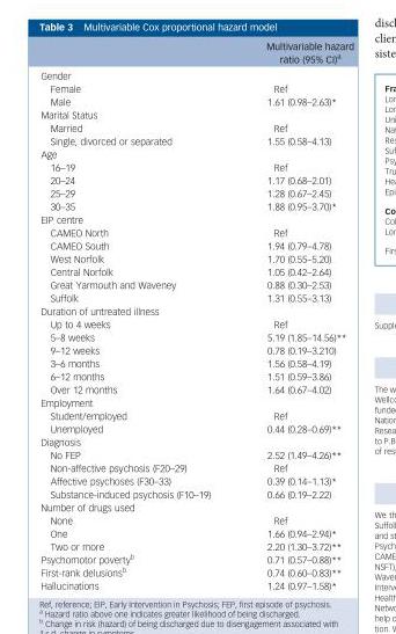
<table><thead><tr><td></td><td>Multivariable hazard ratio (95% CI)<sup>a</sup></td></tr></thead><tbody><tr><td colspan="2">Gender</td></tr><tr><td>Female</td><td>Ref</td></tr><tr><td>Male</td><td>1.61 (0.98–2.63)*</td></tr><tr><td colspan="2">Marital Status</td></tr><tr><td>Married</td><td>Ref</td></tr><tr><td>Single, divorced or separated</td><td>1.55 (0.58–4.13)</td></tr><tr><td colspan="2">Age</td></tr><tr><td>16–19</td><td>Ref</td></tr><tr><td>20–24</td><td>1.17 (0.68–2.01)</td></tr><tr><td>25–29</td><td>1.28 (0.67–2.45)</td></tr><tr><td>30–35</td><td>1.88 (0.95–3.70)*</td></tr><tr><td colspan="2">EIP centre</td></tr><tr><td>CAMEO North</td><td>Ref</td></tr><tr><td>CAMEO South</td><td>1.94 (0.79–4.78)</td></tr><tr><td>West Norfolk</td><td>1.70 (0.55–5.20)</td></tr><tr><td>Central Norfolk</td><td>1.05 (0.42–2.64)</td></tr><tr><td>Great Yarmouth and Waveney</td><td>0.88 (0.30–2.53)</td></tr><tr><td>Suffolk</td><td>1.31 (0.55–3.13)</td></tr><tr><td colspan="2">Duration of untreated illness</td></tr><tr><td>Up to 4 weeks</td><td>Ref</td></tr><tr><td>5–8 weeks</td><td>5.19 (1.85–14.56)**</td></tr><tr><td>9–12 weeks</td><td>0.78 (0.19–3.210)</td></tr><tr><td>3–6 months</td><td>1.56 (0.58–4.19)</td></tr><tr><td>6–12 months</td><td>1.51 (0.59–3.86)</td></tr><tr><td>Over 12 months</td><td>1.64 (0.67–4.02)</td></tr><tr><td colspan="2">Employment</td></tr><tr><td>Student/employed</td><td>Ref</td></tr><tr><td>Unemployed</td><td>0.44 (0.28–0.69)**</td></tr><tr><td colspan="2">Diagnosis</td></tr><tr><td>No FEP</td><td>2.52 (1.49–4.26)**</td></tr><tr><td>Non-affective psychosis (F20–29)</td><td>Ref</td></tr><tr><td>Affective psychoses (F30–33)</td><td>0.39 (0.14–1.13)*</td></tr><tr><td>Substance-induced psychosis (F10–19)</td><td>0.66 (0.19–2.22)</td></tr><tr><td colspan="2">Number of drugs used</td></tr><tr><td>None</td><td>Ref</td></tr><tr><td>One</td><td>1.66 (0.94–2.94)*</td></tr><tr><td>Two or more</td><td>2.20 (1.30–3.72)**</td></tr><tr><td>Psychomotor poverty<sup>b</sup></td><td>0.71 (0.57–0.88)**</td></tr><tr><td>First-rank delusions<sup>b</sup></td><td>0.74 (0.60–0.83)**</td></tr><tr><td>Hallucinations</td><td>1.24 (0.97–1.58)*</td></tr></tbody></table>